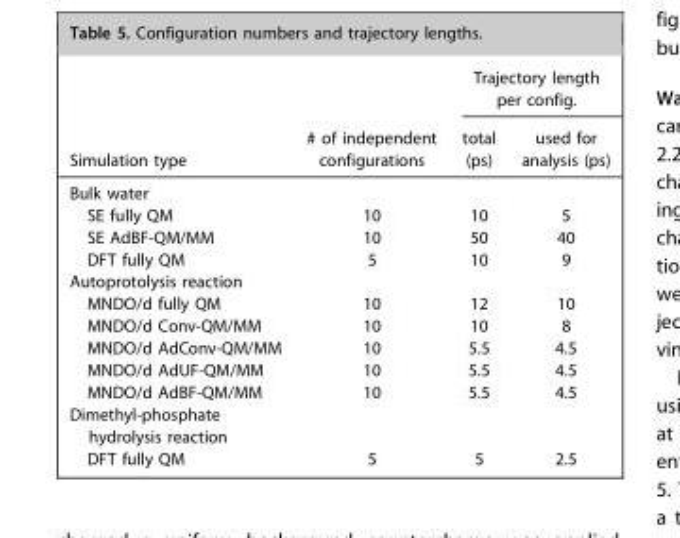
<table><thead><tr><td rowspan="2">Simulation type</td><td rowspan="2"># of independent configurations</td><td colspan="2">Trajectory length per config.</td></tr><tr><td>total (ps)</td><td>used for analysis (ps)</td></tr></thead><tbody><tr><td colspan="4">Bulk water</td></tr><tr><td>SE fully QM</td><td>10</td><td>10</td><td>5</td></tr><tr><td>SE AdBF-QM/MM</td><td>10</td><td>50</td><td>40</td></tr><tr><td>DFT fully QM</td><td>5</td><td>10</td><td>9</td></tr><tr><td colspan="4">Autoprotolysis reaction</td></tr><tr><td>MNDO/d fully QM</td><td>10</td><td>12</td><td>10</td></tr><tr><td>MNDO/d Conv-QM/MM</td><td>10</td><td>10</td><td>8</td></tr><tr><td>MNDO/d AdConv-QM/MM</td><td>10</td><td>5.5</td><td>4.5</td></tr><tr><td>MNDO/d AdUF-QM/MM</td><td>10</td><td>5.5</td><td>4.5</td></tr><tr><td>MNDO/d AdBF-QM/MM</td><td>10</td><td>5.5</td><td>4.5</td></tr><tr><td colspan="4">Dimethyl-phosphate hydrolysis reaction</td></tr><tr><td>DFT fully QM</td><td>5</td><td>5</td><td>2.5</td></tr></tbody></table>